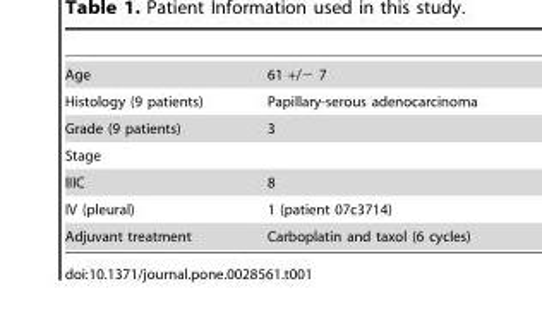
<table><tbody><tr><td>Age</td><td>61 +/− 7</td></tr><tr><td>Histology (9 patients)</td><td>Papillary-serous adenocarcinoma</td></tr><tr><td>Grade (9 patients)</td><td>3</td></tr><tr><td colspan="2">Stage</td></tr><tr><td>IIIC</td><td>8</td></tr><tr><td>IV (pleural)</td><td>1 (patient 07c3714)</td></tr><tr><td>Adjuvant treatment</td><td>Carboplatin and taxol (6 cycles)</td></tr></tbody></table>